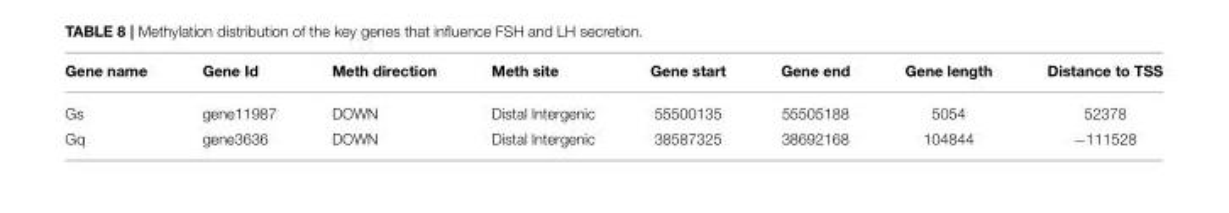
<table><thead><tr><td>Gene name</td><td>Gene Id</td><td>Meth direction</td><td>Meth site</td><td>Gene start</td><td>Gene end</td><td>Gene length</td><td>Distance to TSS</td></tr></thead><tbody><tr><td>Gs</td><td>gene11987</td><td>DOWN</td><td>Distal Intergenic</td><td>55500135</td><td>55505188</td><td>5054</td><td>52378</td></tr><tr><td>Gq</td><td>gene3636</td><td>DOWN</td><td>Distal Intergenic</td><td>38587325</td><td>38692168</td><td>104844</td><td>−111528</td></tr></tbody></table>